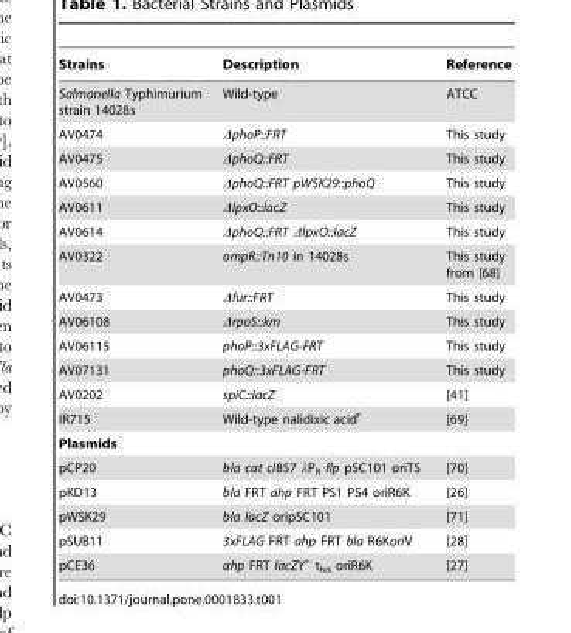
<table><thead><tr><td>Strains</td><td>Description</td><td>Reference</td></tr></thead><tbody><tr><td>Salmonella Typhimurium strain 14028s</td><td>Wild-type</td><td>ATCC</td></tr><tr><td>AV0474</td><td>ΔphoP::FRT</td><td>This study</td></tr><tr><td>AV0475</td><td>ΔphoQ::FRT</td><td>This study</td></tr><tr><td>AV0560</td><td>ΔphoQ::FRT pWSK29::phoQ</td><td>This study</td></tr><tr><td>AV0611</td><td>ΔlpxO::lacZ</td><td>This study</td></tr><tr><td>AV0614</td><td>ΔphoQ::FRT ΔlpxO::lacZ</td><td>This study</td></tr><tr><td>AV0322</td><td>ompR::Tn10 in 14028s</td><td>This study from [68]</td></tr><tr><td>AV0473</td><td>Δfur::FRT</td><td>This study</td></tr><tr><td>AV06108</td><td>ΔrpoS::km</td><td>This study</td></tr><tr><td>AV06115</td><td>phoP::3xFLAG-FRT</td><td>This study</td></tr><tr><td>AV07131</td><td>phoQ::3xFLAG-FRT</td><td>This study</td></tr><tr><td>AV0202</td><td>spiC::lacZ</td><td>[41]</td></tr><tr><td>IR715</td><td>Wild-type nalidixic acid<sup>r</sup></td><td>[69]</td></tr><tr><td colspan="3">Plasmids</td></tr><tr><td>pCP20</td><td>bla cat cI857 λP<sub>R</sub> flp pSC101 oriTS</td><td>[70]</td></tr><tr><td>pKD13</td><td>bla FRT ahp FRT PS1 PS4 oriR6K</td><td>[26]</td></tr><tr><td>pWSK29</td><td>bla lacZ oripSC101</td><td>[71]</td></tr><tr><td>pSUB11</td><td>3xFLAG FRT ahp FRT bla R6KoriV</td><td>[28]</td></tr><tr><td>pCE36</td><td>ahp FRT lacZY<sup>+</sup> t<sub>his</sub> oriR6K</td><td>[27]</td></tr></tbody></table>